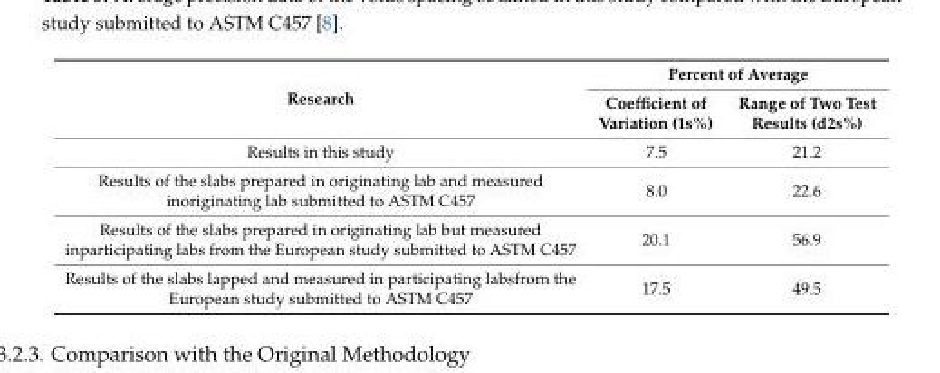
<table><thead><tr><td rowspan="2">Research</td><td colspan="2">Percent of Average</td></tr><tr><td>Coefficient of Variation (1s%)</td><td>Range of Two Test Results (d2s%)</td></tr></thead><tbody><tr><td>Results in this study</td><td>7.5</td><td>21.2</td></tr><tr><td>Results of the slabs prepared in originating lab and measured inoriginating lab submitted to ASTM C457</td><td>8.0</td><td>22.6</td></tr><tr><td>Results of the slabs prepared in originating lab but measured inparticipating labs from the European study submitted to ASTM C457</td><td>20.1</td><td>56.9</td></tr><tr><td>Results of the slabs lapped and measured in participating labsfrom the European study submitted to ASTM C457</td><td>17.5</td><td>49.5</td></tr></tbody></table>